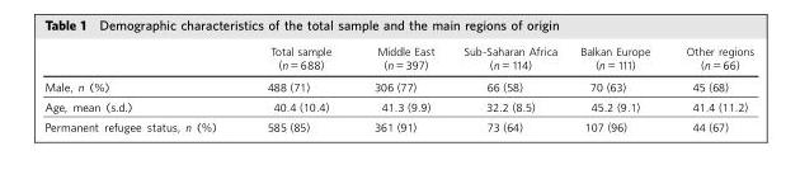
<table><thead><tr><td></td><td>Total sample (n = 688)</td><td>Middle East (n = 397)</td><td>Sub-Saharan Africa (n = 114)</td><td>Balkan Europe (n = 111)</td><td>Other regions (n = 66)</td></tr></thead><tbody><tr><td>Male, n (%)</td><td>488 (71)</td><td>306 (77)</td><td>66 (58)</td><td>70 (63)</td><td>45 (68)</td></tr><tr><td>Age, mean (s.d.)</td><td>40.4 (10.4)</td><td>41.3 (9.9)</td><td>32.2 (8.5)</td><td>45.2 (9.1)</td><td>41.4 (11.2)</td></tr><tr><td>Permanent refugee status, n (%)</td><td>585 (85)</td><td>361 (91)</td><td>73 (64)</td><td>107 (96)</td><td>44 (67)</td></tr></tbody></table>